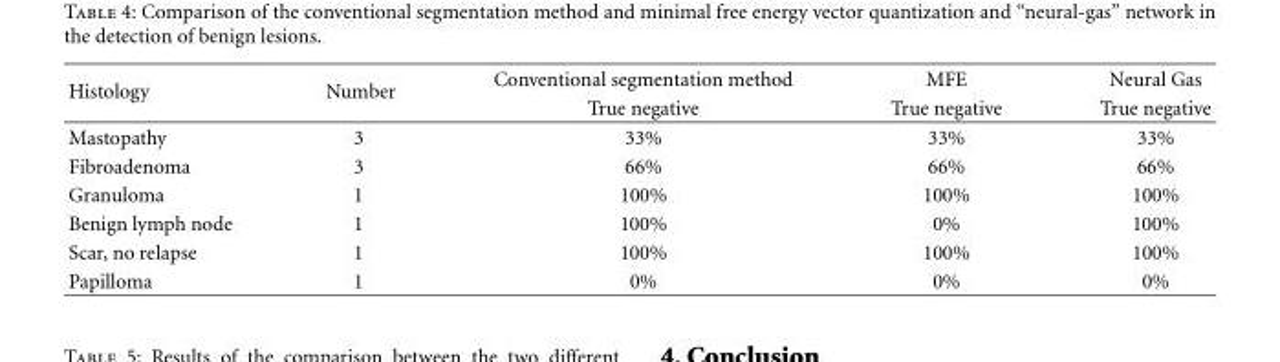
<table><thead><tr><td rowspan="2">Histology</td><td rowspan="2">Number</td><td rowspan="2">Conventional segmentation method True negative</td><td rowspan="2">MFE True negative</td><td rowspan="2">Neural Gas True negative</td></tr><tr></tr></thead><tbody><tr><td>Mastopathy</td><td>3</td><td>33%</td><td>33%</td><td>33%</td></tr><tr><td>Fibroadenoma</td><td>3</td><td>66%</td><td>66%</td><td>66%</td></tr><tr><td>Granuloma</td><td>1</td><td>100%</td><td>100%</td><td>100%</td></tr><tr><td>Benign lymph node</td><td>1</td><td>100%</td><td>0%</td><td>100%</td></tr><tr><td>Scar, no relapse</td><td>1</td><td>100%</td><td>100%</td><td>100%</td></tr><tr><td>Papilloma</td><td>1</td><td>0%</td><td>0%</td><td>0%</td></tr></tbody></table>